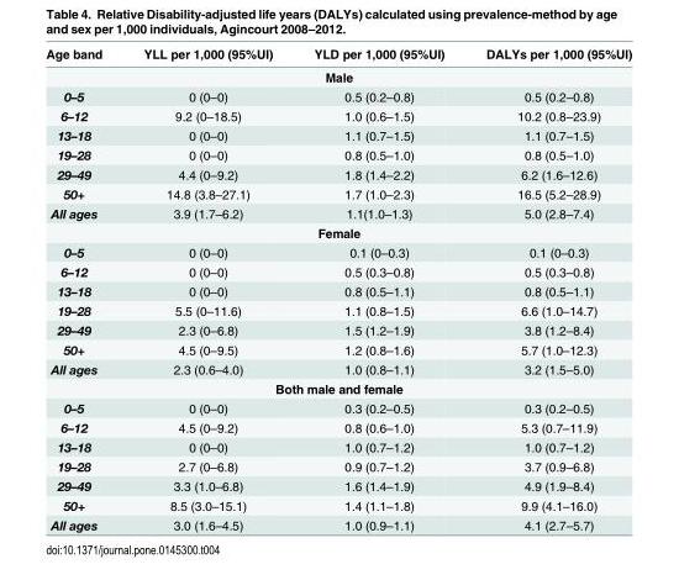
<table><thead><tr><td>Age band</td><td>YLL per 1,000 (95%UI)</td><td>YLD per 1,000 (95%UI)</td><td>DALYs per 1,000 (95%UI)</td></tr></thead><tbody><tr><td colspan="4">Male</td></tr><tr><td>0–5</td><td>0 (0–0)</td><td>0.5 (0.2–0.8)</td><td>0.5 (0.2–0.8)</td></tr><tr><td>6–12</td><td>9.2 (0–18.5)</td><td>1.0 (0.6–1.5)</td><td>10.2 (0.8–23.9)</td></tr><tr><td>13–18</td><td>0 (0–0)</td><td>1.1 (0.7–1.5)</td><td>1.1 (0.7–1.5)</td></tr><tr><td>19–28</td><td>0 (0–0)</td><td>0.8 (0.5–1.0)</td><td>0.8 (0.5–1.0)</td></tr><tr><td>29–49</td><td>4.4 (0–9.2)</td><td>1.8 (1.4–2.2)</td><td>6.2 (1.6–12.6)</td></tr><tr><td>50+</td><td>14.8 (3.8–27.1)</td><td>1.7 (1.0–2.3)</td><td>16.5 (5.2–28.9)</td></tr><tr><td>All ages</td><td>3.9 (1.7–6.2)</td><td>1.1(1.0–1.3)</td><td>5.0 (2.8–7.4)</td></tr><tr><td colspan="4">Female</td></tr><tr><td>0–5</td><td>0 (0–0)</td><td>0.1 (0–0.3)</td><td>0.1 (0–0.3)</td></tr><tr><td>6–12</td><td>0 (0–0)</td><td>0.5 (0.3–0.8)</td><td>0.5 (0.3–0.8)</td></tr><tr><td>13–18</td><td>0 (0–0)</td><td>0.8 (0.5–1.1)</td><td>0.8 (0.5–1.1)</td></tr><tr><td>19–28</td><td>5.5 (0–11.6)</td><td>1.1 (0.8–1.5)</td><td>6.6 (1.0–14.7)</td></tr><tr><td>29–49</td><td>2.3 (0–6.8)</td><td>1.5 (1.2–1.9)</td><td>3.8 (1.2–8.4)</td></tr><tr><td>50+</td><td>4.5 (0–9.5)</td><td>1.2 (0.8–1.6)</td><td>5.7 (1.0–12.3)</td></tr><tr><td>All ages</td><td>2.3 (0.6–4.0)</td><td>1.0 (0.8–1.1)</td><td>3.2 (1.5–5.0)</td></tr><tr><td colspan="4">Both male and female</td></tr><tr><td>0–5</td><td>0 (0–0)</td><td>0.3 (0.2–0.5)</td><td>0.3 (0.2–0.5)</td></tr><tr><td>6–12</td><td>4.5 (0–9.2)</td><td>0.8 (0.6–1.0)</td><td>5.3 (0.7–11.9)</td></tr><tr><td>13–18</td><td>0 (0–0)</td><td>1.0 (0.7–1.2)</td><td>1.0 (0.7–1.2)</td></tr><tr><td>19–28</td><td>2.7 (0–6.8)</td><td>0.9 (0.7–1.2)</td><td>3.7 (0.9–6.8)</td></tr><tr><td>29–49</td><td>3.3 (1.0–6.8)</td><td>1.6 (1.4–1.9)</td><td>4.9 (1.9–8.4)</td></tr><tr><td>50+</td><td>8.5 (3.0–15.1)</td><td>1.4 (1.1–1.8)</td><td>9.9 (4.1–16.0)</td></tr><tr><td>All ages</td><td>3.0 (1.6–4.5)</td><td>1.0 (0.9–1.1)</td><td>4.1 (2.7–5.7)</td></tr></tbody></table>